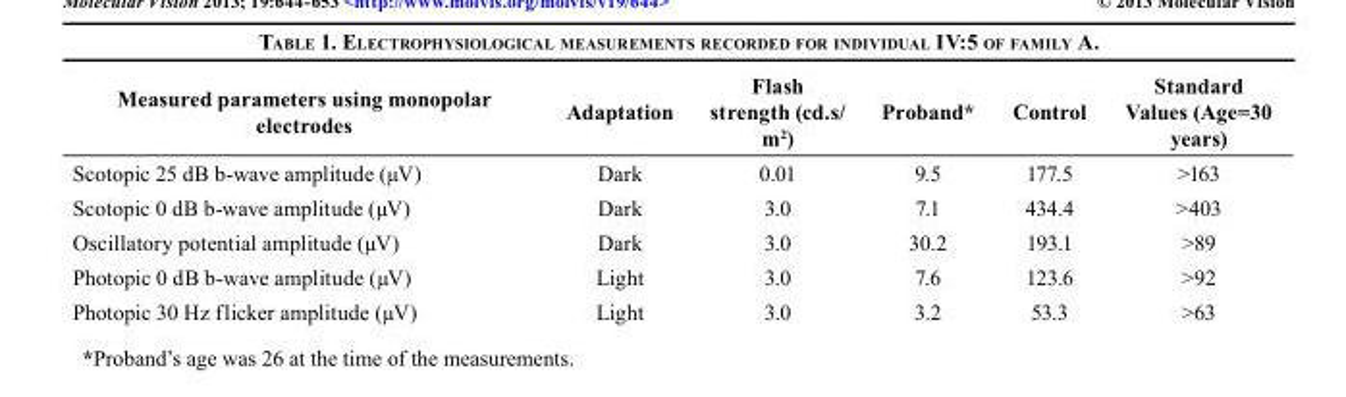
<table><thead><tr><td>Measured parameters using monopolar electrodes</td><td>Adaptation</td><td>Flash strength (cd.s/ m<sup>2</sup>)</td><td>Proband*</td><td>Control</td><td>Standard Values (Age=30 years)</td></tr></thead><tbody><tr><td>Scotopic 25 dB b-wave amplitude (µV)</td><td>Dark</td><td>0.01</td><td>9.5</td><td>177.5</td><td>&gt;163</td></tr><tr><td>Scotopic 0 dB b-wave amplitude (µV)</td><td>Dark</td><td>3.0</td><td>7.1</td><td>434.4</td><td>&gt;403</td></tr><tr><td>Oscillatory potential amplitude (µV)</td><td>Dark</td><td>3.0</td><td>30.2</td><td>193.1</td><td>&gt;89</td></tr><tr><td>Photopic 0 dB b-wave amplitude (µV)</td><td>Light</td><td>3.0</td><td>7.6</td><td>123.6</td><td>&gt;92</td></tr><tr><td>Photopic 30 Hz flicker amplitude (µV)</td><td>Light</td><td>3.0</td><td>3.2</td><td>53.3</td><td>&gt;63</td></tr></tbody></table>